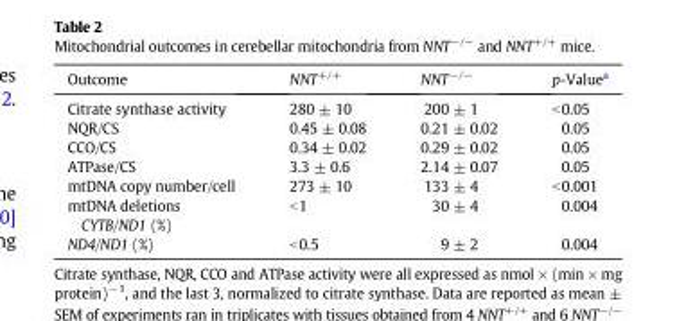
<table><thead><tr><td>Outcome</td><td>NNT<sup>+/+</sup></td><td>NNT<sup>−/−</sup></td><td>p-Value<sup>a</sup></td></tr></thead><tbody><tr><td>Citrate synthase activity</td><td>280 ± 10</td><td>200 ± 1</td><td>&lt;0.05</td></tr><tr><td>NQR/CS</td><td>0.45 ± 0.08</td><td>0.21 ± 0.02</td><td>0.05</td></tr><tr><td>CCO/CS</td><td>0.34 ± 0.02</td><td>0.29 ± 0.02</td><td>0.05</td></tr><tr><td>ATPase/CS</td><td>3.3 ± 0.6</td><td>2.14 ± 0.07</td><td>0.05</td></tr><tr><td>mtDNA copy number/cell</td><td>273 ± 10</td><td>133 ± 4</td><td>&lt;0.001</td></tr><tr><td>mtDNA deletions CYTB/ND1 (%)</td><td>&lt;1</td><td>30 ± 4</td><td>0.004</td></tr><tr><td>ND4/ND1 (%)</td><td>&lt;0.5</td><td>9 ± 2</td><td>0.004</td></tr></tbody></table>